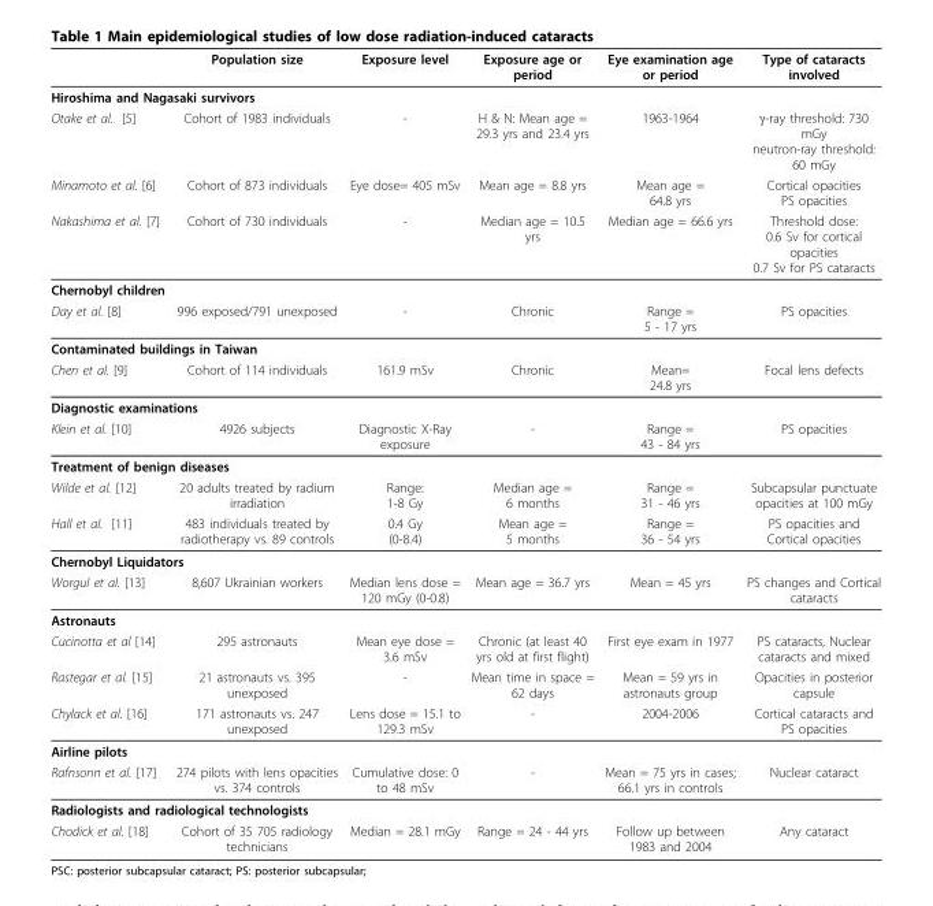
<table><thead><tr><td></td><td>Population size</td><td>Exposure level</td><td>Exposure age or period</td><td>Eye examination age or period</td><td>Type of cataracts involved</td></tr></thead><tbody><tr><td colspan="6">Hiroshima and Nagasaki survivors</td></tr><tr><td>Otake et al. [5]</td><td>Cohort of 1983 individuals</td><td>-</td><td>H &amp; N: Mean age = 29.3 yrs and 23.4 yrs</td><td>1963-1964</td><td>γ-ray threshold: 730 mGy neutron-ray threshold: 60 mGy</td></tr><tr><td>Minamoto et al. [6]</td><td>Cohort of 873 individuals</td><td>Eye dose= 405 mSv</td><td>Mean age = 8.8 yrs</td><td>Mean age = 64.8 yrs</td><td>Cortical opacities PS opacities</td></tr><tr><td>Nakashima et al. [7]</td><td>Cohort of 730 individuals</td><td>-</td><td>Median age = 10.5 yrs</td><td>Median age = 66.6 yrs</td><td>Threshold dose: 0.6 Sv for cortical opacities 0.7 Sv for PS cataracts</td></tr><tr><td colspan="6">Chernobyl children</td></tr><tr><td>Day et al. [8]</td><td>996 exposed/791 unexposed</td><td>-</td><td>Chronic</td><td>Range = 5 - 17 yrs</td><td>PS opacities</td></tr><tr><td colspan="6">Contaminated buildings in Taiwan</td></tr><tr><td>Chen et al. [9]</td><td>Cohort of 114 individuals</td><td>161.9 mSv</td><td>Chronic</td><td>Mean= 24.8 yrs</td><td>Focal lens defects</td></tr><tr><td colspan="6">Diagnostic examinations</td></tr><tr><td>Klein et al. [10]</td><td>4926 subjects</td><td>Diagnostic X-Ray exposure</td><td>-</td><td>Range = 43 - 84 yrs</td><td>PS opacities</td></tr><tr><td colspan="6">Treatment of benign diseases</td></tr><tr><td>Wilde et al. [12]</td><td>20 adults treated by radium irradiation</td><td>Range: 1-8 Gy</td><td>Median age = 6 months</td><td>Range = 31 - 46 yrs</td><td>Subcapsular punctuate opacities at 100 mGy</td></tr><tr><td>Hall et al. [11]</td><td>483 individuals treated by radiotherapy vs. 89 controls</td><td>0.4 Gy (0-8.4)</td><td>Mean age = 5 months</td><td>Range = 36 - 54 yrs</td><td>PS opacities and Cortical opacities</td></tr><tr><td colspan="6">Chernobyl Liquidators</td></tr><tr><td>Worgul et al. [13]</td><td>8,607 Ukrainian workers</td><td>Median lens dose = 120 mGy (0-0.8)</td><td>Mean age = 36.7 yrs</td><td>Mean = 45 yrs</td><td>PS changes and Cortical cataracts</td></tr><tr><td colspan="6">Astronauts</td></tr><tr><td>Cucinotta et al [14]</td><td>295 astronauts</td><td>Mean eye dose = 3.6 mSv</td><td>Chronic (at least 40 yrs old at first flight)</td><td>First eye exam in 1977</td><td>PS cataracts, Nuclear cataracts and mixed</td></tr><tr><td>Rastegar et al. [15]</td><td>21 astronauts vs. 395 unexposed</td><td>-</td><td>Mean time in space = 62 days</td><td>Mean = 59 yrs in astronauts group</td><td>Opacities in posterior capsule</td></tr><tr><td>Chylack et al. [16]</td><td>171 astronauts vs. 247 unexposed</td><td>Lens dose = 15.1 to 129.3 mSv</td><td>-</td><td>2004-2006</td><td>Cortical cataracts and PS opacities</td></tr><tr><td colspan="6">Airline pilots</td></tr><tr><td>Rafnsonn et al. [17]</td><td>274 pilots with lens opacities vs. 374 controls</td><td>Cumulative dose: 0 to 48 mSv</td><td>-</td><td>Mean = 75 yrs in cases; 66.1 yrs in controls</td><td>Nuclear cataract</td></tr><tr><td colspan="6">Radiologists and radiological technologists</td></tr><tr><td>Chodick et al. [18]</td><td>Cohort of 35 705 radiology technicians</td><td>Median = 28.1 mGy</td><td>Range = 24 - 44 yrs</td><td>Follow up between 1983 and 2004</td><td>Any cataract</td></tr></tbody></table>